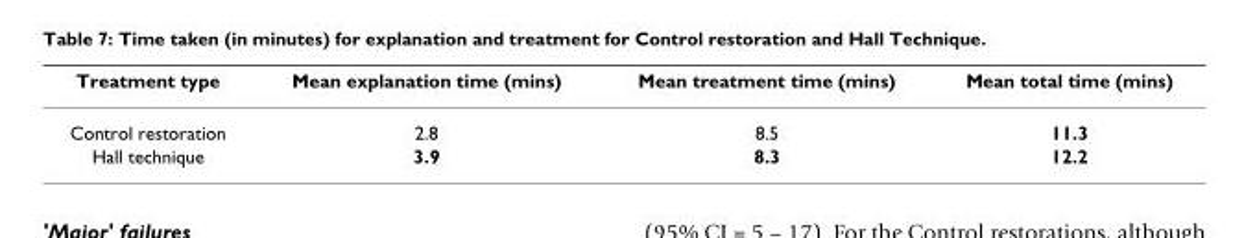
<table><thead><tr><td>Treatment type</td><td>Mean explanation time (mins)</td><td>Mean treatment time (mins)</td><td>Mean total time (mins)</td></tr></thead><tbody><tr><td>Control restoration</td><td>2.8</td><td>8.5</td><td>11.3</td></tr><tr><td>Hall technique</td><td>3.9</td><td>8.3</td><td>12.2</td></tr></tbody></table>